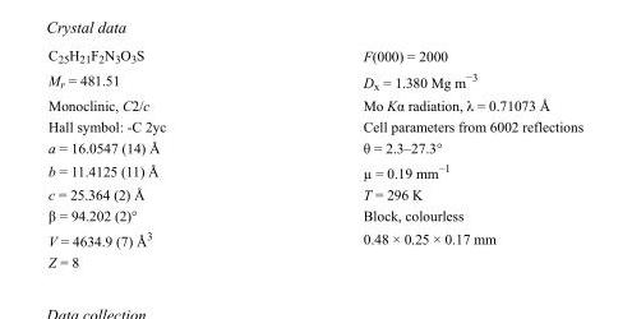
<table><tbody><tr><td>C<sub>25</sub>H<sub>21</sub>F<sub>2</sub>N<sub>3</sub>O<sub>3</sub>S</td><td>F(000) = 2000</td></tr><tr><td>M<sub>r</sub> = 481.51</td><td>D<sub>x</sub> = 1.380 Mg m<sup>−3</sup></td></tr><tr><td>Monoclinic, C2/c</td><td>Mo Kα radiation, λ = 0.71073 Å</td></tr><tr><td>Hall symbol: -C 2yc</td><td>Cell parameters from 6002 reflections</td></tr><tr><td>a = 16.0547 (14) Å</td><td>θ = 2.3–27.3°</td></tr><tr><td>b = 11.4125 (11) Å</td><td>µ = 0.19 mm<sup>−1</sup></td></tr><tr><td>c = 25.364 (2) Å</td><td>T = 296 K</td></tr><tr><td>β = 94.202 (2)°</td><td>Block, colourless</td></tr><tr><td>V = 4634.9 (7) Å<sup>3</sup></td><td>0.48 × 0.25 × 0.17 mm</td></tr><tr><td>Z = 8</td><td></td></tr></tbody></table>